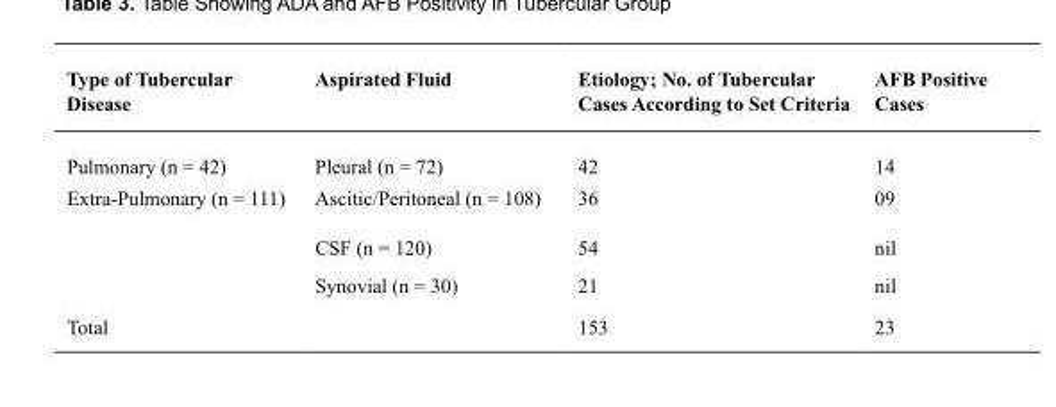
<table><thead><tr><td>Type of Tubercular Disease</td><td>Aspirated Fluid</td><td>Etiology; No. of Tubercular Cases According to Set Criteria</td><td>AFB Positive Cases</td></tr></thead><tbody><tr><td>Pulmonary (n = 42)</td><td>Pleural (n = 72)</td><td>42</td><td>14</td></tr><tr><td rowspan="3">Extra-Pulmonary (n = 111)</td><td>Ascitic/Peritoneal (n = 108)</td><td>36</td><td>09</td></tr><tr><td>CSF (n = 120)</td><td>54</td><td>nil</td></tr><tr><td>Synovial (n = 30)</td><td>21</td><td>nil</td></tr><tr><td colspan="2">Total</td><td>153</td><td>23</td></tr></tbody></table>